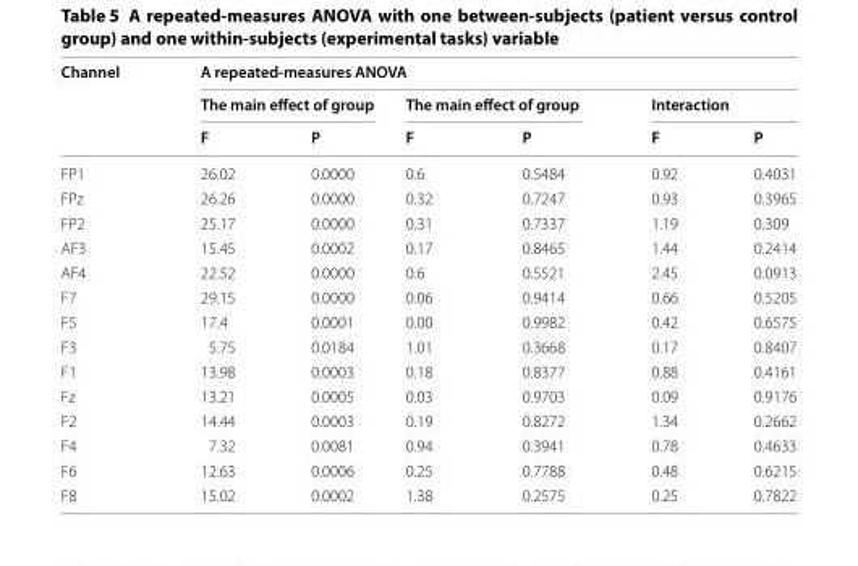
<table><thead><tr><td rowspan="3">Channel</td><td colspan="6">A repeated-measures ANOVA</td></tr><tr><td colspan="2">The main effect of group</td><td colspan="2">The main effect of group</td><td colspan="2">Interaction</td></tr><tr><td>F</td><td>P</td><td>F</td><td>P</td><td>F</td><td>P</td></tr></thead><tbody><tr><td>FP1</td><td>26.02</td><td>0.0000</td><td>0.6</td><td>0.5484</td><td>0.92</td><td>0.4031</td></tr><tr><td>FPz</td><td>26.26</td><td>0.0000</td><td>0.32</td><td>0.7247</td><td>0.93</td><td>0.3965</td></tr><tr><td>FP2</td><td>25.17</td><td>0.0000</td><td>0.31</td><td>0.7337</td><td>1.19</td><td>0.309</td></tr><tr><td>AF3</td><td>15.45</td><td>0.0002</td><td>0.17</td><td>0.8465</td><td>1.44</td><td>0.2414</td></tr><tr><td>AF4</td><td>22.52</td><td>0.0000</td><td>0.6</td><td>0.5521</td><td>2.45</td><td>0.0913</td></tr><tr><td>F7</td><td>29.15</td><td>0.0000</td><td>0.06</td><td>0.9414</td><td>0.66</td><td>0.5205</td></tr><tr><td>F5</td><td>17.4</td><td>0.0001</td><td>0.00</td><td>0.9982</td><td>0.42</td><td>0.6575</td></tr><tr><td>F3</td><td>5.75</td><td>0.0184</td><td>1.01</td><td>0.3668</td><td>0.17</td><td>0.8407</td></tr><tr><td>F1</td><td>13.98</td><td>0.0003</td><td>0.18</td><td>0.8377</td><td>0.88</td><td>0.4161</td></tr><tr><td>Fz</td><td>13.21</td><td>0.0005</td><td>0.03</td><td>0.9703</td><td>0.09</td><td>0.9176</td></tr><tr><td>F2</td><td>14.44</td><td>0.0003</td><td>0.19</td><td>0.8272</td><td>1.34</td><td>0.2662</td></tr><tr><td>F4</td><td>7.32</td><td>0.0081</td><td>0.94</td><td>0.3941</td><td>0.78</td><td>0.4633</td></tr><tr><td>F6</td><td>12.63</td><td>0.0006</td><td>0.25</td><td>0.7788</td><td>0.48</td><td>0.6215</td></tr><tr><td>F8</td><td>15.02</td><td>0.0002</td><td>1.38</td><td>0.2575</td><td>0.25</td><td>0.7822</td></tr></tbody></table>